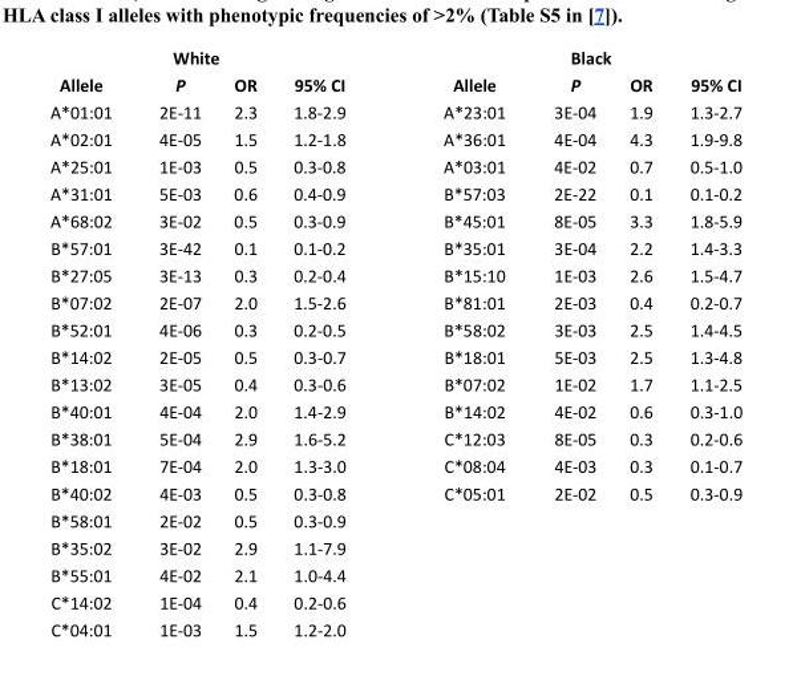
<table><thead><tr><td colspan="4">White</td><td colspan="4">Black</td></tr><tr><td>Allele</td><td>P</td><td>OR</td><td>95% CI</td><td>Allele</td><td>P</td><td>OR</td><td>95% CI</td></tr></thead><tbody><tr><td>A*01:01</td><td>2E-11</td><td>2.3</td><td>1.8-2.9</td><td>A*23:01</td><td>3E-04</td><td>1.9</td><td>1.3-2.7</td></tr><tr><td>A*02:01</td><td>4E-05</td><td>1.5</td><td>1.2-1.8</td><td>A*36:01</td><td>4E-04</td><td>4.3</td><td>1.9-9.8</td></tr><tr><td>A*25:01</td><td>1E-03</td><td>0.5</td><td>0.3-0.8</td><td>A*03:01</td><td>4E-02</td><td>0.7</td><td>0.5-1.0</td></tr><tr><td>A*31:01</td><td>5E-03</td><td>0.6</td><td>0.4-0.9</td><td>B*57:03</td><td>2E-22</td><td>0.1</td><td>0.1-0.2</td></tr><tr><td>A*68:02</td><td>3E-02</td><td>0.5</td><td>0.3-0.9</td><td>B*45:01</td><td>8E-05</td><td>3.3</td><td>1.8-5.9</td></tr><tr><td>B*57:01</td><td>3E-42</td><td>0.1</td><td>0.1-0.2</td><td>B*35:01</td><td>3E-04</td><td>2.2</td><td>1.4-3.3</td></tr><tr><td>B*27:05</td><td>3E-13</td><td>0.3</td><td>0.2-0.4</td><td>B*15:10</td><td>1E-03</td><td>2.6</td><td>1.5-4.7</td></tr><tr><td>B*07:02</td><td>2E-07</td><td>2.0</td><td>1.5-2.6</td><td>B*81:01</td><td>2E-03</td><td>0.4</td><td>0.2-0.7</td></tr><tr><td>B*52:01</td><td>4E-06</td><td>0.3</td><td>0.2-0.5</td><td>B*58:02</td><td>3E-03</td><td>2.5</td><td>1.4-4.5</td></tr><tr><td>B*14:02</td><td>2E-05</td><td>0.5</td><td>0.3-0.7</td><td>B*18:01</td><td>5E-03</td><td>2.5</td><td>1.3-4.8</td></tr><tr><td>B*13:02</td><td>3E-05</td><td>0.4</td><td>0.3-0.6</td><td>B*07:02</td><td>1E-02</td><td>1.7</td><td>1.1-2.5</td></tr><tr><td>B*40:01</td><td>4E-04</td><td>2.0</td><td>1.4-2.9</td><td>B*14:02</td><td>4E-02</td><td>0.6</td><td>0.3-1.0</td></tr><tr><td>B*38:01</td><td>5E-04</td><td>2.9</td><td>1.6-5.2</td><td>C*12:03</td><td>8E-05</td><td>0.3</td><td>0.2-0.6</td></tr><tr><td>B*18:01</td><td>7E-04</td><td>2.0</td><td>1.3-3.0</td><td>C*08:04</td><td>4E-03</td><td>0.3</td><td>0.1-0.7</td></tr><tr><td>B*40:02</td><td>4E-03</td><td>0.5</td><td>0.3-0.8</td><td>C*05:01</td><td>2E-02</td><td>0.5</td><td>0.3-0.9</td></tr><tr><td>B*58:01</td><td>2E-02</td><td>0.5</td><td>0.3-0.9</td><td></td><td></td><td></td><td></td></tr><tr><td>B*35:02</td><td>3E-02</td><td>2.9</td><td>1.1-7.9</td><td></td><td></td><td></td><td></td></tr><tr><td>B*55:01</td><td>4E-02</td><td>2.1</td><td>1.0-4.4</td><td></td><td></td><td></td><td></td></tr><tr><td>C*14:02</td><td>1E-04</td><td>0.4</td><td>0.2-0.6</td><td></td><td></td><td></td><td></td></tr><tr><td>C*04:01</td><td>1E-03</td><td>1.5</td><td>1.2-2.0</td><td></td><td></td><td></td><td></td></tr></tbody></table>